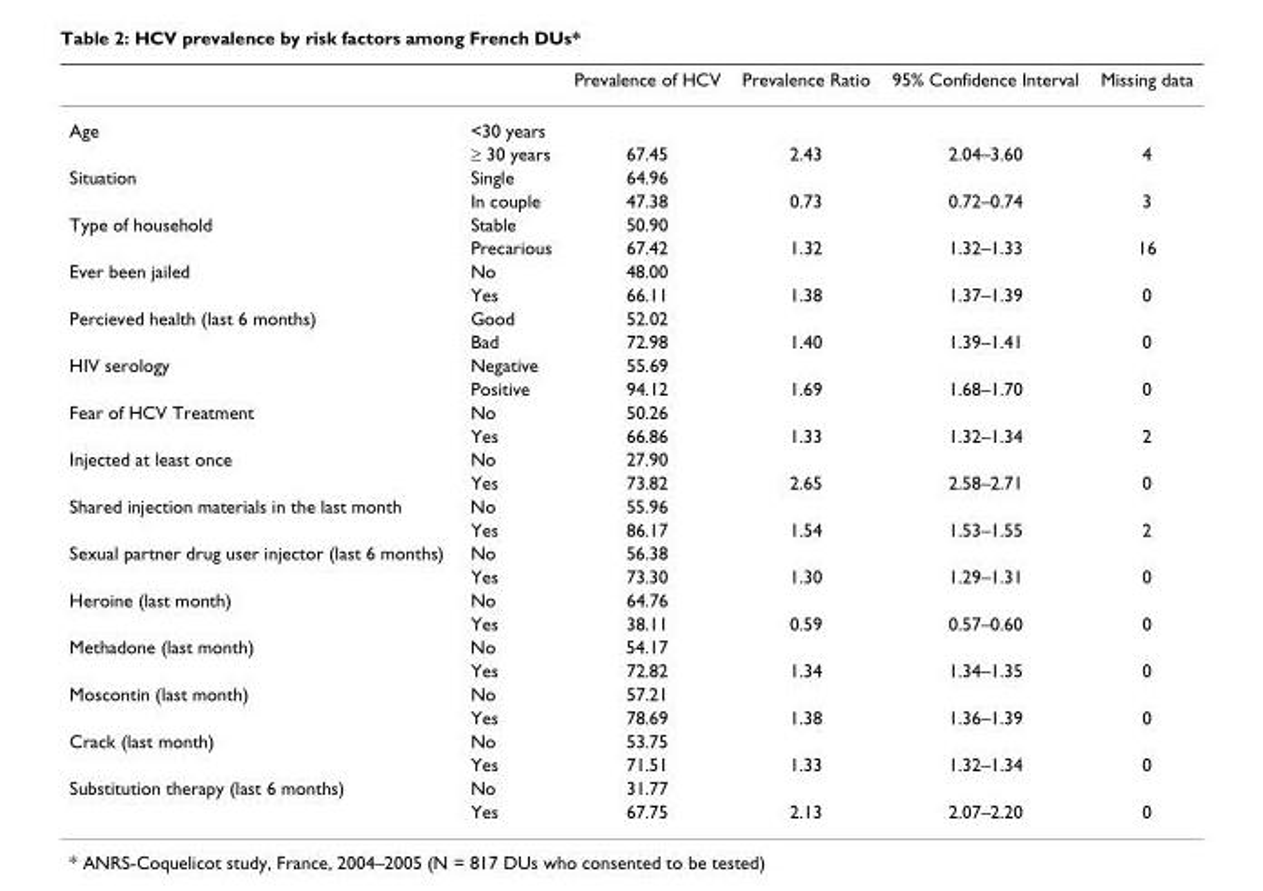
<table><thead><tr><td></td><td></td><td>Prevalence of HCV</td><td>Prevalence Ratio</td><td>95% Confidence Interval</td><td>Missing data</td></tr></thead><tbody><tr><td rowspan="2">Age</td><td>&lt;30 years</td><td></td><td></td><td></td><td></td></tr><tr><td>≥ 30 years</td><td>67.45</td><td>2.43</td><td>2.04–3.60</td><td>4</td></tr><tr><td rowspan="2">Situation</td><td>Single</td><td>64.96</td><td></td><td></td><td></td></tr><tr><td>In couple</td><td>47.38</td><td>0.73</td><td>0.72–0.74</td><td>3</td></tr><tr><td rowspan="2">Type of household</td><td>Stable</td><td>50.90</td><td></td><td></td><td></td></tr><tr><td>Precarious</td><td>67.42</td><td>1.32</td><td>1.32–1.33</td><td>16</td></tr><tr><td rowspan="2">Ever been jailed</td><td>No</td><td>48.00</td><td></td><td></td><td></td></tr><tr><td>Yes</td><td>66.11</td><td>1.38</td><td>1.37–1.39</td><td>0</td></tr><tr><td rowspan="2">Percieved health (last 6 months)</td><td>Good</td><td>52.02</td><td></td><td></td><td></td></tr><tr><td>Bad</td><td>72.98</td><td>1.40</td><td>1.39–1.41</td><td>0</td></tr><tr><td rowspan="2">HIV serology</td><td>Negative</td><td>55.69</td><td></td><td></td><td></td></tr><tr><td>Positive</td><td>94.12</td><td>1.69</td><td>1.68–1.70</td><td>0</td></tr><tr><td rowspan="2">Fear of HCV Treatment</td><td>No</td><td>50.26</td><td></td><td></td><td></td></tr><tr><td>Yes</td><td>66.86</td><td>1.33</td><td>1.32–1.34</td><td>2</td></tr><tr><td rowspan="2">Injected at least once</td><td>No</td><td>27.90</td><td></td><td></td><td></td></tr><tr><td>Yes</td><td>73.82</td><td>2.65</td><td>2.58–2.71</td><td>0</td></tr><tr><td rowspan="2">Shared injection materials in the last month</td><td>No</td><td>55.96</td><td></td><td></td><td></td></tr><tr><td>Yes</td><td>86.17</td><td>1.54</td><td>1.53–1.55</td><td>2</td></tr><tr><td rowspan="2">Sexual partner drug user injector (last 6 months)</td><td>No</td><td>56.38</td><td></td><td></td><td></td></tr><tr><td>Yes</td><td>73.30</td><td>1.30</td><td>1.29–1.31</td><td>0</td></tr><tr><td rowspan="2">Heroine (last month)</td><td>No</td><td>64.76</td><td></td><td></td><td></td></tr><tr><td>Yes</td><td>38.11</td><td>0.59</td><td>0.57–0.60</td><td>0</td></tr><tr><td rowspan="2">Methadone (last month)</td><td>No</td><td>54.17</td><td></td><td></td><td></td></tr><tr><td>Yes</td><td>72.82</td><td>1.34</td><td>1.34–1.35</td><td>0</td></tr><tr><td rowspan="2">Moscontin (last month)</td><td>No</td><td>57.21</td><td></td><td></td><td></td></tr><tr><td>Yes</td><td>78.69</td><td>1.38</td><td>1.36–1.39</td><td>0</td></tr><tr><td rowspan="2">Crack (last month)</td><td>No</td><td>53.75</td><td></td><td></td><td></td></tr><tr><td>Yes</td><td>71.51</td><td>1.33</td><td>1.32–1.34</td><td>0</td></tr><tr><td rowspan="2">Substitution therapy (last 6 months)</td><td>No</td><td>31.77</td><td></td><td></td><td></td></tr><tr><td>Yes</td><td>67.75</td><td>2.13</td><td>2.07–2.20</td><td>0</td></tr></tbody></table>